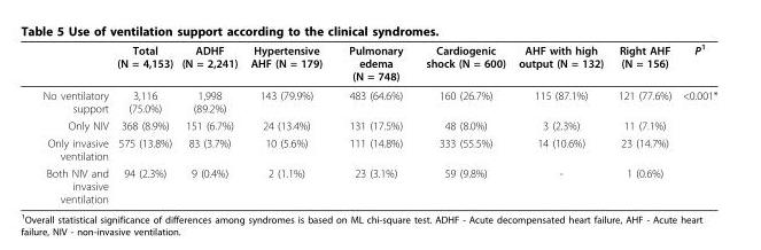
<table><thead><tr><td></td><td>Total (N = 4,153)</td><td>ADHF (N = 2,241)</td><td>Hypertensive AHF (N = 179)</td><td>Pulmonary edema (N = 748)</td><td>Cardiogenic shock (N = 600)</td><td>AHF with high output (N = 132)</td><td>Right AHF (N = 156)</td><td>P<sup>1</sup></td></tr></thead><tbody><tr><td>No ventilatory support</td><td>3,116 (75.0%)</td><td>1,998 (89.2%)</td><td>143 (79.9%)</td><td>483 (64.6%)</td><td>160 (26.7%)</td><td>115 (87.1%)</td><td>121 (77.6%)</td><td>&lt;0.001*</td></tr><tr><td>Only NIV</td><td>368 (8.9%)</td><td>151 (6.7%)</td><td>24 (13.4%)</td><td>131 (17.5%)</td><td>48 (8.0%)</td><td>3 (2.3%)</td><td>11 (7.1%)</td><td></td></tr><tr><td>Only invasive ventilation</td><td>575 (13.8%)</td><td>83 (3.7%)</td><td>10 (5.6%)</td><td>111 (14.8%)</td><td>333 (55.5%)</td><td>14 (10.6%)</td><td>23 (14.7%)</td><td></td></tr><tr><td>Both NIV and invasive ventilation</td><td>94 (2.3%)</td><td>9 (0.4%)</td><td>2 (1.1%)</td><td>23 (3.1%)</td><td>59 (9.8%)</td><td>-</td><td>1 (0.6%)</td><td></td></tr></tbody></table>